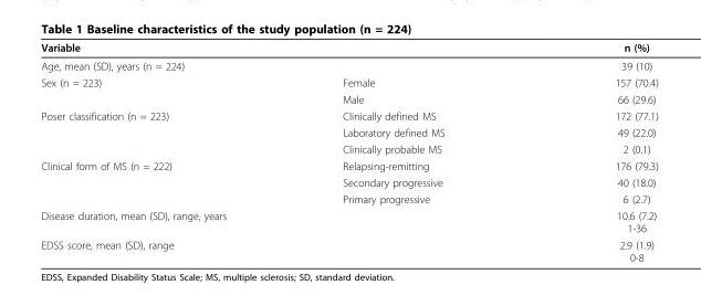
<table><thead><tr><td>Variable</td><td></td><td>n (%)</td></tr></thead><tbody><tr><td>Age, mean (SD), years (n = 224)</td><td></td><td>39 (10)</td></tr><tr><td rowspan="2">Sex (n = 223)</td><td>Female</td><td>157 (70.4)</td></tr><tr><td>Male</td><td>66 (29.6)</td></tr><tr><td rowspan="3">Poser classification (n = 223)</td><td>Clinically defined MS</td><td>172 (77.1)</td></tr><tr><td>Laboratory defined MS</td><td>49 (22.0)</td></tr><tr><td>Clinically probable MS</td><td>2 (0.1)</td></tr><tr><td rowspan="3">Clinical form of MS (n = 222)</td><td>Relapsing-remitting</td><td>176 (79.3)</td></tr><tr><td>Secondary progressive</td><td>40 (18.0)</td></tr><tr><td>Primary progressive</td><td>6 (2.7)</td></tr><tr><td>Disease duration, mean (SD), range, years</td><td></td><td>10.6 (7.2) 1-36</td></tr><tr><td>EDSS score, mean (SD), range</td><td></td><td>2.9 (1.9) 0-8</td></tr></tbody></table>